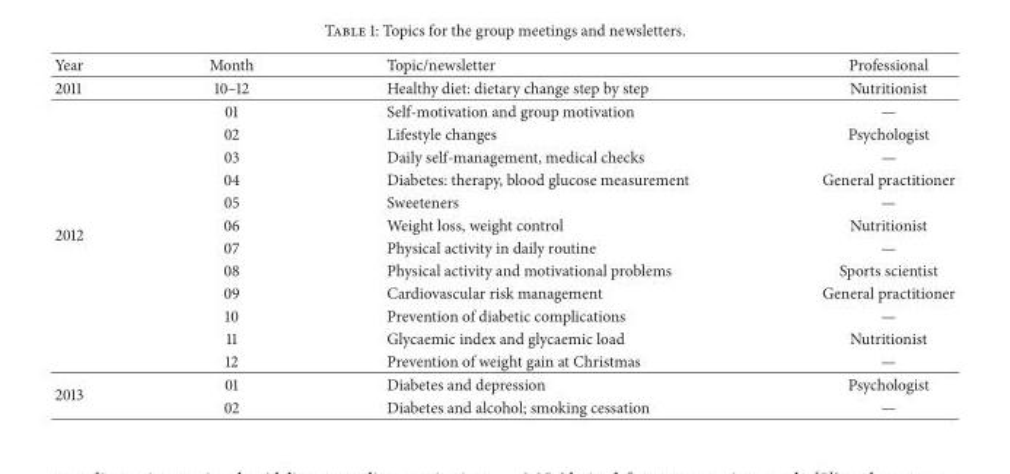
<table><thead><tr><td>Year</td><td>Month</td><td>Topic/newsletter</td><td>Professional</td></tr></thead><tbody><tr><td>2011</td><td>10–12</td><td>Healthy diet: dietary change step by step</td><td>Nutritionist</td></tr><tr><td rowspan="12">2012</td><td>01</td><td>Self-motivation and group motivation</td><td>—</td></tr><tr><td>02</td><td>Lifestyle changes</td><td>Psychologist</td></tr><tr><td>03</td><td>Daily self-management, medical checks</td><td>—</td></tr><tr><td>04</td><td>Diabetes: therapy, blood glucose measurement</td><td>General practitioner</td></tr><tr><td>05</td><td>Sweeteners</td><td>—</td></tr><tr><td>06</td><td>Weight loss, weight control</td><td>Nutritionist</td></tr><tr><td>07</td><td>Physical activity in daily routine</td><td>—</td></tr><tr><td>08</td><td>Physical activity and motivational problems</td><td>Sports scientist</td></tr><tr><td>09</td><td>Cardiovascular risk management</td><td>General practitioner</td></tr><tr><td>10</td><td>Prevention of diabetic complications</td><td>—</td></tr><tr><td>11</td><td>Glycaemic index and glycaemic load</td><td>Nutritionist</td></tr><tr><td>12</td><td>Prevention of weight gain at Christmas</td><td>—</td></tr><tr><td rowspan="2">2013</td><td>01</td><td>Diabetes and depression</td><td>Psychologist</td></tr><tr><td>02</td><td>Diabetes and alcohol; smoking cessation</td><td>—</td></tr></tbody></table>